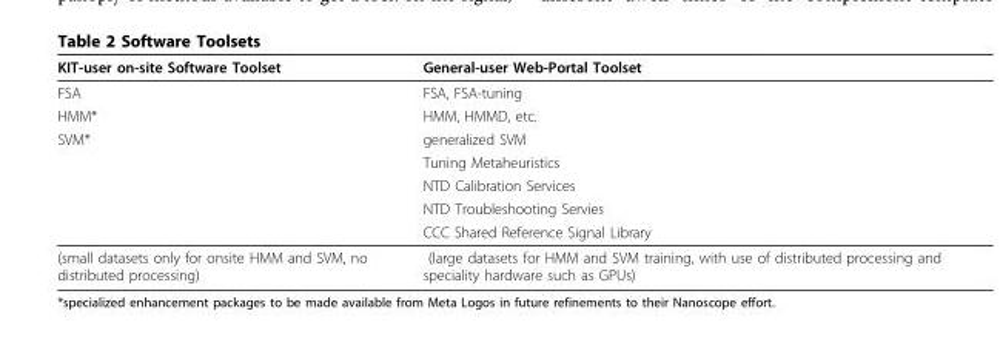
<table><thead><tr><td>KIT-user on-site Software Toolset</td><td>General-user Web-Portal Toolset</td></tr></thead><tbody><tr><td>FSA</td><td>FSA, FSA-tuning</td></tr><tr><td>HMM*</td><td>HMM, HMMD, etc.</td></tr><tr><td rowspan="5">SVM*</td><td>generalized SVM</td></tr><tr><td>Tuning Metaheuristics</td></tr><tr><td>NTD Calibration Services</td></tr><tr><td>NTD Troubleshooting Servies</td></tr><tr><td>CCC Shared Reference Signal Library</td></tr><tr><td>(small datasets only for onsite HMM and SVM, no distributed processing)</td><td>(large datasets for HMM and SVM training, with use of distributed processing and speciality hardware such as GPUs)</td></tr></tbody></table>